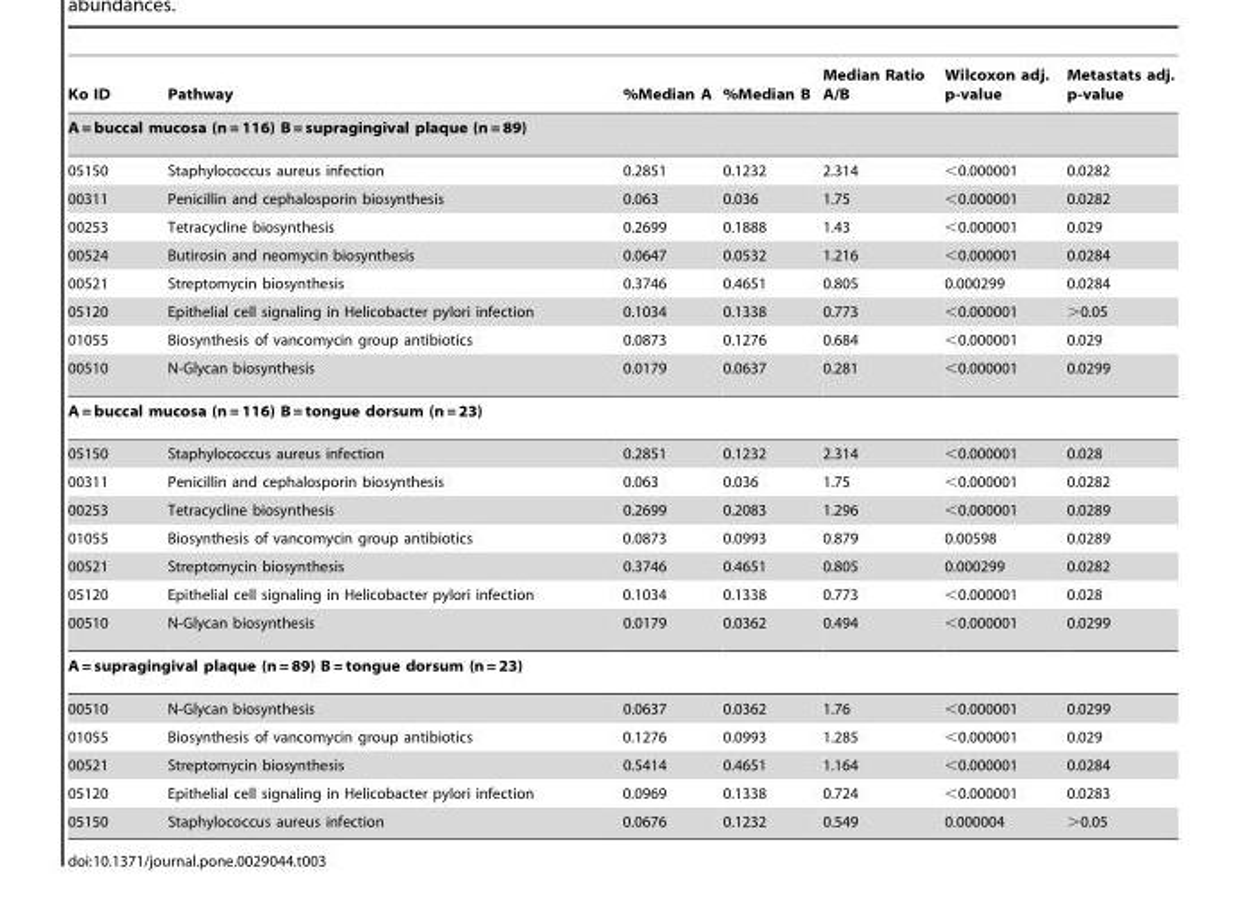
<table><thead><tr><td>Ko ID</td><td>Pathway</td><td>%Median A</td><td>%Median B</td><td>Median Ratio A/B</td><td>Wilcoxon adj. p-value</td><td>Metastats adj. p-value</td></tr></thead><tbody><tr><td colspan="7">A = buccal mucosa (n = 116) B = supragingival plaque (n = 89)</td></tr><tr><td>05150</td><td>Staphylococcus aureus infection</td><td>0.2851</td><td>0.1232</td><td>2.314</td><td>&lt;0.000001</td><td>0.0282</td></tr><tr><td>00311</td><td>Penicillin and cephalosporin biosynthesis</td><td>0.063</td><td>0.036</td><td>1.75</td><td>&lt;0.000001</td><td>0.0282</td></tr><tr><td>00253</td><td>Tetracycline biosynthesis</td><td>0.2699</td><td>0.1888</td><td>1.43</td><td>&lt;0.000001</td><td>0.029</td></tr><tr><td>00524</td><td>Butirosin and neomycin biosynthesis</td><td>0.0647</td><td>0.0532</td><td>1.216</td><td>&lt;0.000001</td><td>0.0284</td></tr><tr><td>00521</td><td>Streptomycin biosynthesis</td><td>0.3746</td><td>0.4651</td><td>0.805</td><td>0.000299</td><td>0.0284</td></tr><tr><td>05120</td><td>Epithelial cell signaling in Helicobacter pylori infection</td><td>0.1034</td><td>0.1338</td><td>0.773</td><td>&lt;0.000001</td><td>&gt;0.05</td></tr><tr><td>01055</td><td>Biosynthesis of vancomycin group antibiotics</td><td>0.0873</td><td>0.1276</td><td>0.684</td><td>&lt;0.000001</td><td>0.029</td></tr><tr><td>00510</td><td>N-Glycan biosynthesis</td><td>0.0179</td><td>0.0637</td><td>0.281</td><td>&lt;0.000001</td><td>0.0299</td></tr><tr><td colspan="7">A = buccal mucosa (n = 116) B = tongue dorsum (n = 23)</td></tr><tr><td>05150</td><td>Staphylococcus aureus infection</td><td>0.2851</td><td>0.1232</td><td>2.314</td><td>&lt;0.000001</td><td>0.028</td></tr><tr><td>00311</td><td>Penicillin and cephalosporin biosynthesis</td><td>0.063</td><td>0.036</td><td>1.75</td><td>&lt;0.000001</td><td>0.0282</td></tr><tr><td>00253</td><td>Tetracycline biosynthesis</td><td>0.2699</td><td>0.2083</td><td>1.296</td><td>&lt;0.000001</td><td>0.0289</td></tr><tr><td>01055</td><td>Biosynthesis of vancomycin group antibiotics</td><td>0.0873</td><td>0.0993</td><td>0.879</td><td>0.00598</td><td>0.0289</td></tr><tr><td>00521</td><td>Streptomycin biosynthesis</td><td>0.3746</td><td>0.4651</td><td>0.805</td><td>0.000299</td><td>0.0282</td></tr><tr><td>05120</td><td>Epithelial cell signaling in Helicobacter pylori infection</td><td>0.1034</td><td>0.1338</td><td>0.773</td><td>&lt;0.000001</td><td>0.028</td></tr><tr><td>00510</td><td>N-Glycan biosynthesis</td><td>0.0179</td><td>0.0362</td><td>0.494</td><td>&lt;0.000001</td><td>0.0299</td></tr><tr><td colspan="7">A = supragingival plaque (n = 89) B = tongue dorsum (n = 23)</td></tr><tr><td>00510</td><td>N-Glycan biosynthesis</td><td>0.0637</td><td>0.0362</td><td>1.76</td><td>&lt;0.000001</td><td>0.0299</td></tr><tr><td>01055</td><td>Biosynthesis of vancomycin group antibiotics</td><td>0.1276</td><td>0.0993</td><td>1.285</td><td>&lt;0.000001</td><td>0.029</td></tr><tr><td>00521</td><td>Streptomycin biosynthesis</td><td>0.5414</td><td>0.4651</td><td>1.164</td><td>&lt;0.000001</td><td>0.0284</td></tr><tr><td>05120</td><td>Epithelial cell signaling in Helicobacter pylori infection</td><td>0.0969</td><td>0.1338</td><td>0.724</td><td>&lt;0.000001</td><td>0.0283</td></tr><tr><td>05150</td><td>Staphylococcus aureus infection</td><td>0.0676</td><td>0.1232</td><td>0.549</td><td>0.000004</td><td>&gt;0.05</td></tr></tbody></table>